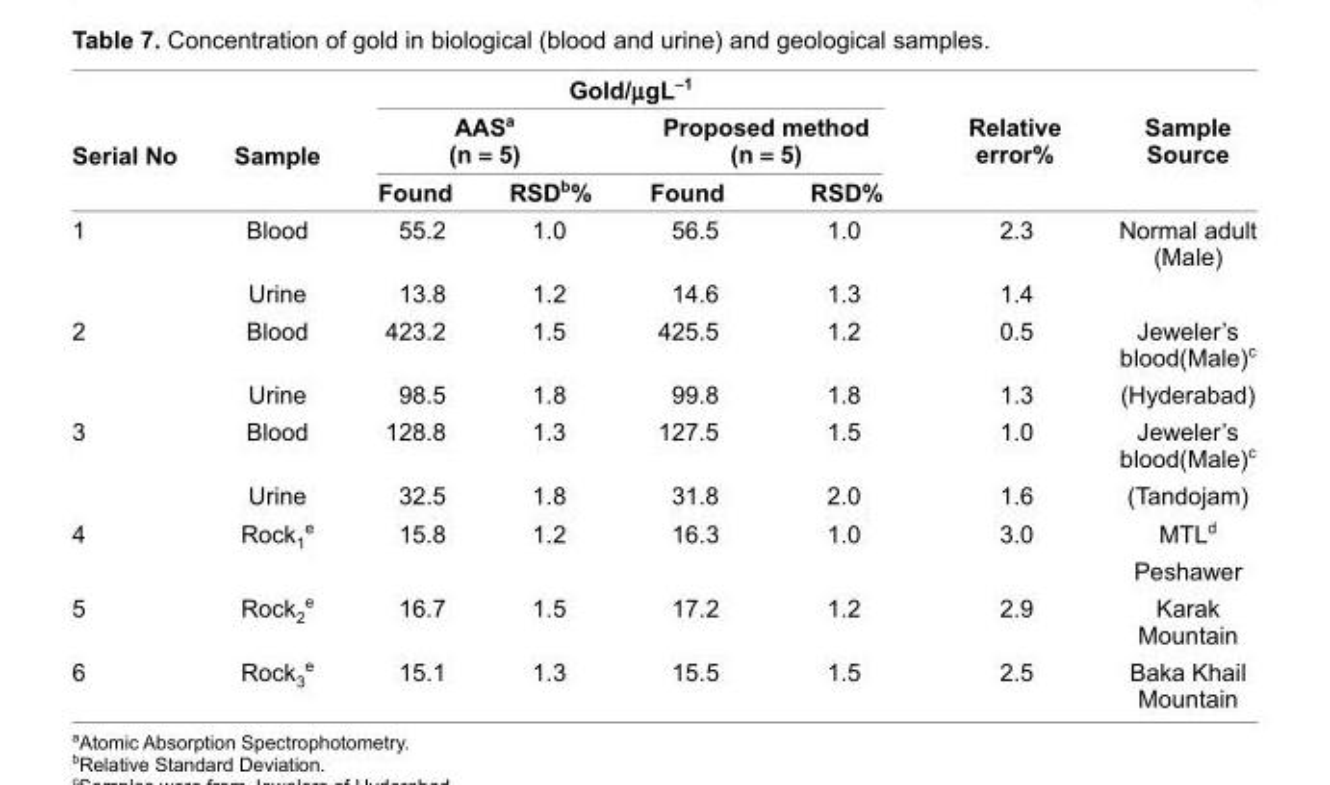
<table><thead><tr><td rowspan="3">Serial No</td><td rowspan="3">Sample</td><td colspan="4">Gold/μgL<sup>−1</sup></td><td rowspan="3">Relative error%</td><td rowspan="3">Sample Source</td></tr><tr><td colspan="2">AAS<sup>a</sup> (n = 5)</td><td colspan="2">Proposed method (n = 5)</td></tr><tr><td>Found</td><td>RSD<sup>b</sup>%</td><td>Found</td><td>RSD%</td></tr></thead><tbody><tr><td rowspan="2">1</td><td>Blood</td><td>55.2</td><td>1.0</td><td>56.5</td><td>1.0</td><td>2.3</td><td rowspan="2">Normal adult (Male)</td></tr><tr><td>Urine</td><td>13.8</td><td>1.2</td><td>14.6</td><td>1.3</td><td>1.4</td></tr><tr><td rowspan="2">2</td><td>Blood</td><td>423.2</td><td>1.5</td><td>425.5</td><td>1.2</td><td>0.5</td><td>Jeweler’s blood(Male)<sup>c</sup></td></tr><tr><td>Urine</td><td>98.5</td><td>1.8</td><td>99.8</td><td>1.8</td><td>1.3</td><td>(Hyderabad)</td></tr><tr><td rowspan="2">3</td><td>Blood</td><td>128.8</td><td>1.3</td><td>127.5</td><td>1.5</td><td>1.0</td><td>Jeweler’s blood(Male)<sup>c</sup></td></tr><tr><td>Urine</td><td>32.5</td><td>1.8</td><td>31.8</td><td>2.0</td><td>1.6</td><td>(Tandojam)</td></tr><tr><td rowspan="2">4</td><td rowspan="2">Rock<sub>1</sub> <sup>e</sup></td><td rowspan="2">15.8</td><td rowspan="2">1.2</td><td rowspan="2">16.3</td><td rowspan="2">1.0</td><td rowspan="2">3.0</td><td>MTL<sup>d</sup></td></tr><tr><td>Peshawer</td></tr><tr><td>5</td><td>Rock<sub>2</sub> <sup>e</sup></td><td>16.7</td><td>1.5</td><td>17.2</td><td>1.2</td><td>2.9</td><td>Karak Mountain</td></tr><tr><td>6</td><td>Rock<sub>3</sub> <sup>e</sup></td><td>15.1</td><td>1.3</td><td>15.5</td><td>1.5</td><td>2.5</td><td>Baka Khail Mountain</td></tr></tbody></table>